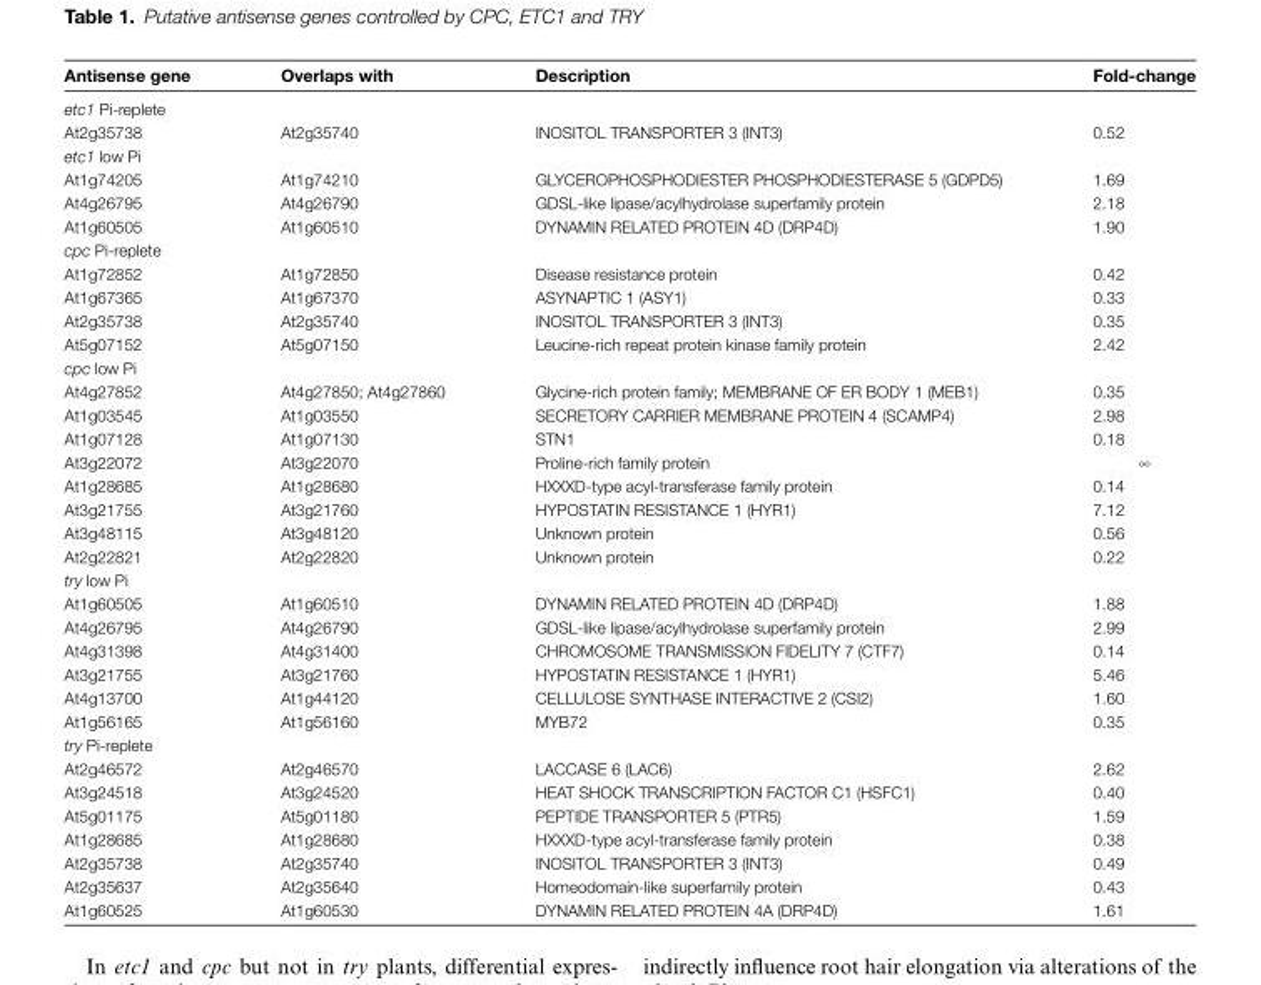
<table><thead><tr><td>Antisense gene</td><td>Overlaps with</td><td>Description</td><td>Fold-change</td></tr></thead><tbody><tr><td colspan="4">etc1 Pi-replete</td></tr><tr><td>At2g35738</td><td>At2g35740</td><td>INOSITOL TRANSPORTER 3 (INT3)</td><td>0.52</td></tr><tr><td colspan="4">etc1 low Pi</td></tr><tr><td>At1g74205</td><td>At1g74210</td><td>GLYCEROPHOSPHODIESTER PHOSPHODIESTERASE 5 (GDPD5)</td><td>1.69</td></tr><tr><td>At4g26795</td><td>At4g26790</td><td>GDSL-like lipase/acylhydrolase superfamily protein</td><td>2.18</td></tr><tr><td>At1g60505</td><td>At1g60510</td><td>DYNAMIN RELATED PROTEIN 4D (DRP4D)</td><td>1.90</td></tr><tr><td colspan="4">cpc Pi-replete</td></tr><tr><td>At1g72852</td><td>At1g72850</td><td>Disease resistance protein</td><td>0.42</td></tr><tr><td>At1g67365</td><td>At1g67370</td><td>ASYNAPTIC 1 (ASY1)</td><td>0.33</td></tr><tr><td>At2g35738</td><td>At2g35740</td><td>INOSITOL TRANSPORTER 3 (INT3)</td><td>0.35</td></tr><tr><td>At5g07152</td><td>At5g07150</td><td>Leucine-rich repeat protein kinase family protein</td><td>2.42</td></tr><tr><td colspan="4">cpc low Pi</td></tr><tr><td>At4g27852</td><td>At4g27850; At4g27860</td><td>Glycine-rich protein family; MEMBRANE OF ER BODY 1 (MEB1)</td><td>0.35</td></tr><tr><td>At1g03545</td><td>At1g03550</td><td>SECRETORY CARRIER MEMBRANE PROTEIN 4 (SCAMP4)</td><td>2.98</td></tr><tr><td>At1g07128</td><td>At1g07130</td><td>STN1</td><td>0.18</td></tr><tr><td>At3g22072</td><td>At3g22070</td><td>Proline-rich family protein</td><td>∞</td></tr><tr><td>At1g28685</td><td>At1g28680</td><td>HXXXD-type acyl-transferase family protein</td><td>0.14</td></tr><tr><td>At3g21755</td><td>At3g21760</td><td>HYPOSTATIN RESISTANCE 1 (HYR1)</td><td>7.12</td></tr><tr><td>At3g48115</td><td>At3g48120</td><td>Unknown protein</td><td>0.56</td></tr><tr><td>At2g22821</td><td>At2g22820</td><td>Unknown protein</td><td>0.22</td></tr><tr><td colspan="4">try low Pi</td></tr><tr><td>At1g60505</td><td>At1g60510</td><td>DYNAMIN RELATED PROTEIN 4D (DRP4D)</td><td>1.88</td></tr><tr><td>At4g26795</td><td>At4g26790</td><td>GDSL-like lipase/acylhydrolase superfamily protein</td><td>2.99</td></tr><tr><td>At4g31398</td><td>At4g31400</td><td>CHROMOSOME TRANSMISSION FIDELITY 7 (CTF7)</td><td>0.14</td></tr><tr><td>At3g21755</td><td>At3g21760</td><td>HYPOSTATIN RESISTANCE 1 (HYR1)</td><td>5.46</td></tr><tr><td>At4g13700</td><td>At1g44120</td><td>CELLULOSE SYNTHASE INTERACTIVE 2 (CSI2)</td><td>1.60</td></tr><tr><td>At1g56165</td><td>At1g56160</td><td>MYB72</td><td>0.35</td></tr><tr><td colspan="4">try Pi-replete</td></tr><tr><td>At2g46572</td><td>At2g46570</td><td>LACCASE 6 (LAC6)</td><td>2.62</td></tr><tr><td>At3g24518</td><td>At3g24520</td><td>HEAT SHOCK TRANSCRIPTION FACTOR C1 (HSFC1)</td><td>0.40</td></tr><tr><td>At5g01175</td><td>At5g01180</td><td>PEPTIDE TRANSPORTER 5 (PTR5)</td><td>1.59</td></tr><tr><td>At1g28685</td><td>At1g28680</td><td>HXXXD-type acyl-transferase family protein</td><td>0.38</td></tr><tr><td>At2g35738</td><td>At2g35740</td><td>INOSITOL TRANSPORTER 3 (INT3)</td><td>0.49</td></tr><tr><td>At2g35637</td><td>At2g35640</td><td>Homeodomain-like superfamily protein</td><td>0.43</td></tr><tr><td>At1g60525</td><td>At1g60530</td><td>DYNAMIN RELATED PROTEIN 4A (DRP4D)</td><td>1.61</td></tr></tbody></table>